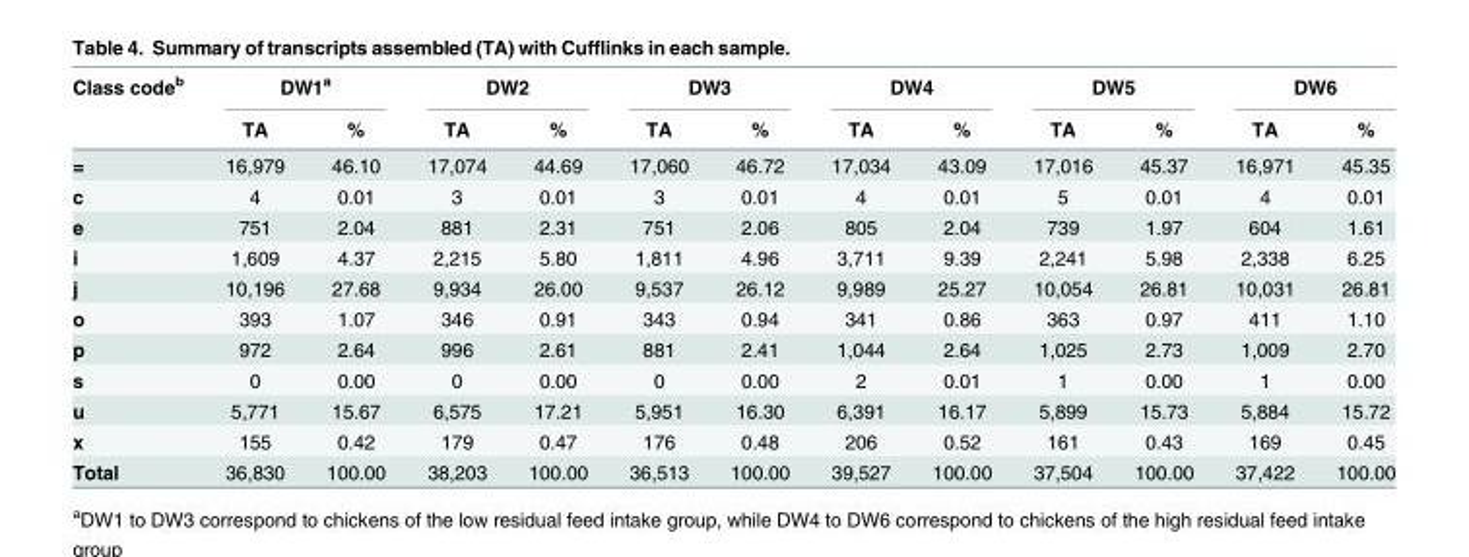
<table><thead><tr><td rowspan="2">Class code<sup>b</sup></td><td colspan="2">DW1<sup>a</sup></td><td colspan="2">DW2</td><td colspan="2">DW3</td><td colspan="2">DW4</td><td colspan="2">DW5</td><td colspan="2">DW6</td></tr><tr><td>TA</td><td>%</td><td>TA</td><td>%</td><td>TA</td><td>%</td><td>TA</td><td>%</td><td>TA</td><td>%</td><td>TA</td><td>%</td></tr></thead><tbody><tr><td>=</td><td>16,979</td><td>46.10</td><td>17,074</td><td>44.69</td><td>17,060</td><td>46.72</td><td>17,034</td><td>43.09</td><td>17,016</td><td>45.37</td><td>16,971</td><td>45.35</td></tr><tr><td>c</td><td>4</td><td>0.01</td><td>3</td><td>0.01</td><td>3</td><td>0.01</td><td>4</td><td>0.01</td><td>5</td><td>0.01</td><td>4</td><td>0.01</td></tr><tr><td>e</td><td>751</td><td>2.04</td><td>881</td><td>2.31</td><td>751</td><td>2.06</td><td>805</td><td>2.04</td><td>739</td><td>1.97</td><td>604</td><td>1.61</td></tr><tr><td>i</td><td>1,609</td><td>4.37</td><td>2,215</td><td>5.80</td><td>1,811</td><td>4.96</td><td>3,711</td><td>9.39</td><td>2,241</td><td>5.98</td><td>2,338</td><td>6.25</td></tr><tr><td>j</td><td>10,196</td><td>27.68</td><td>9,934</td><td>26.00</td><td>9,537</td><td>26.12</td><td>9,989</td><td>25.27</td><td>10,054</td><td>26.81</td><td>10,031</td><td>26.81</td></tr><tr><td>o</td><td>393</td><td>1.07</td><td>346</td><td>0.91</td><td>343</td><td>0.94</td><td>341</td><td>0.86</td><td>363</td><td>0.97</td><td>411</td><td>1.10</td></tr><tr><td>p</td><td>972</td><td>2.64</td><td>996</td><td>2.61</td><td>881</td><td>2.41</td><td>1,044</td><td>2.64</td><td>1,025</td><td>2.73</td><td>1,009</td><td>2.70</td></tr><tr><td>s</td><td>0</td><td>0.00</td><td>0</td><td>0.00</td><td>0</td><td>0.00</td><td>2</td><td>0.01</td><td>1</td><td>0.00</td><td>1</td><td>0.00</td></tr><tr><td>u</td><td>5,771</td><td>15.67</td><td>6,575</td><td>17.21</td><td>5,951</td><td>16.30</td><td>6,391</td><td>16.17</td><td>5,899</td><td>15.73</td><td>5,884</td><td>15.72</td></tr><tr><td>x</td><td>155</td><td>0.42</td><td>179</td><td>0.47</td><td>176</td><td>0.48</td><td>206</td><td>0.52</td><td>161</td><td>0.43</td><td>169</td><td>0.45</td></tr><tr><td>Total</td><td>36,830</td><td>100.00</td><td>38,203</td><td>100.00</td><td>36,513</td><td>100.00</td><td>39,527</td><td>100.00</td><td>37,504</td><td>100.00</td><td>37,422</td><td>100.00</td></tr></tbody></table>